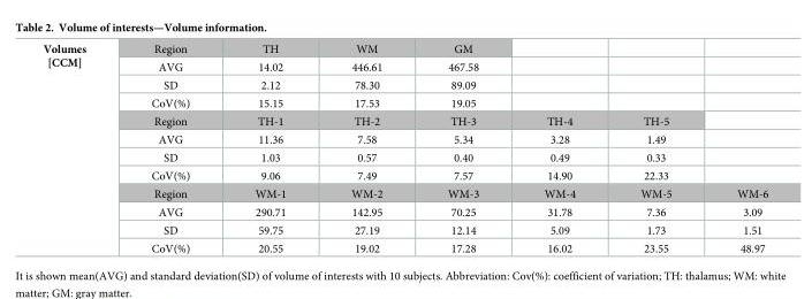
<table><tbody><tr><td rowspan="12">Volumes [CCM]</td><td>Region</td><td>TH</td><td>WM</td><td>GM</td><td></td><td></td><td></td></tr><tr><td>AVG</td><td>14.02</td><td>446.61</td><td>467.58</td><td></td><td></td><td></td></tr><tr><td>SD</td><td>2.12</td><td>78.30</td><td>89.09</td><td></td><td></td><td></td></tr><tr><td>CoV(%)</td><td>15.15</td><td>17.53</td><td>19.05</td><td></td><td></td><td></td></tr><tr><td>Region</td><td>TH-1</td><td>TH-2</td><td>TH-3</td><td>TH-4</td><td>TH-5</td><td></td></tr><tr><td>AVG</td><td>11.36</td><td>7.58</td><td>5.34</td><td>3.28</td><td>1.49</td><td></td></tr><tr><td>SD</td><td>1.03</td><td>0.57</td><td>0.40</td><td>0.49</td><td>0.33</td><td></td></tr><tr><td>CoV(%)</td><td>9.06</td><td>7.49</td><td>7.57</td><td>14.90</td><td>22.33</td><td></td></tr><tr><td>Region</td><td>WM-1</td><td>WM-2</td><td>WM-3</td><td>WM-4</td><td>WM-5</td><td>WM-6</td></tr><tr><td>AVG</td><td>290.71</td><td>142.95</td><td>70.25</td><td>31.78</td><td>7.36</td><td>3.09</td></tr><tr><td>SD</td><td>59.75</td><td>27.19</td><td>12.14</td><td>5.09</td><td>1.73</td><td>1.51</td></tr><tr><td>CoV(%)</td><td>20.55</td><td>19.02</td><td>17.28</td><td>16.02</td><td>23.55</td><td>48.97</td></tr></tbody></table>